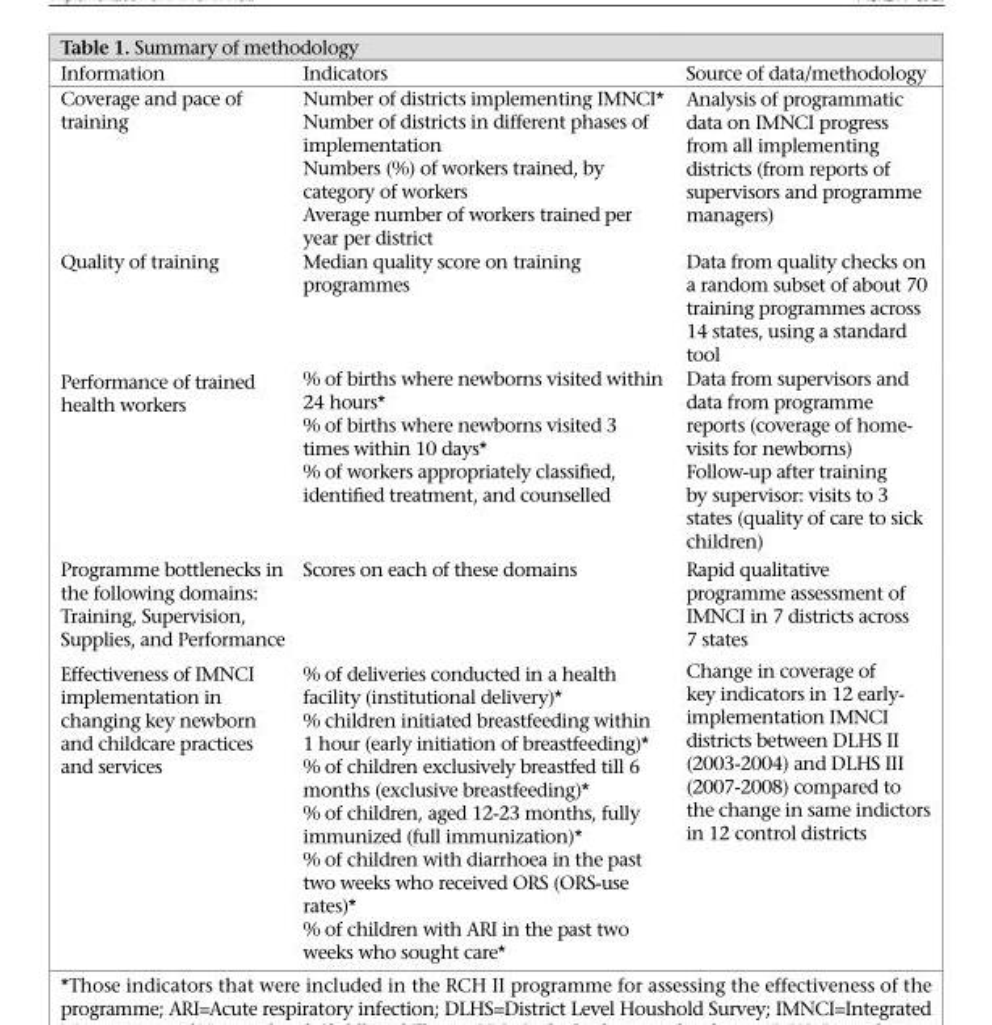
<table><thead><tr><td>Information</td><td>Indicators</td><td>Source of data/methodology</td></tr></thead><tbody><tr><td>Coverage and pace of training</td><td>Number of districts implementing IMNCI* Number of districts in different phases of implementation Numbers (%) of workers trained, by category of workers Average number of workers trained per year per district</td><td>Analysis of programmatic data on IMNCI progress from all implementing districts (from reports of supervisors and programme managers)</td></tr><tr><td>Quality of training</td><td>Median quality score on training programmes</td><td>Data from quality checks on a random subset of about 70 training programmes across 14 states, using a standard tool</td></tr><tr><td>Performance of trained health workers</td><td>% of births where newborns visited within 24 hours* % of births where newborns visited 3 times within 10 days* % of workers appropriately classified, identified treatment, and counselled</td><td>Data from supervisors and data from programme reports (coverage of home- visits for newborns) Follow-up after training by supervisor: visits to 3 states (quality of care to sick children)</td></tr><tr><td>Programme bottlenecks in the following domains: Training, Supervision, Supplies, and Performance</td><td>Scores on each of these domains</td><td>Rapid qualitative programme assessment of IMNCI in 7 districts across 7 states</td></tr><tr><td>Effectiveness of IMNCI implementation in changing key newborn and childcare practices and services</td><td>% of deliveries conducted in a health facility (institutional delivery)* % children initiated breastfeeding within 1 hour (early initiation of breastfeeding)* % of children exclusively breastfed till 6 months (exclusive breastfeeding)* % of children, aged 12-23 months, fully immunized (full immunization)* % of children with diarrhoea in the past two weeks who received ORS (ORS-use rates)* % of children with ARI in the past two weeks who sought care*</td><td>Change in coverage of key indicators in 12 early- implementation IMNCI districts between DLHS II (2003-2004) and DLHS III (2007-2008) compared to the change in same indictors in 12 control districts</td></tr></tbody></table>